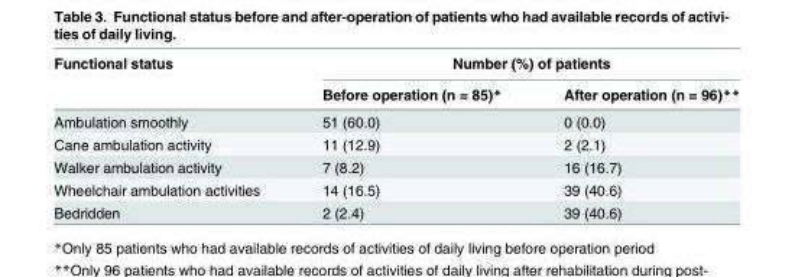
<table><thead><tr><td rowspan="2">Functional status</td><td colspan="2">Number (%) of patients</td></tr><tr><td>Before operation (n = 85)*</td><td>After operation (n = 96)**</td></tr></thead><tbody><tr><td>Ambulation smoothly</td><td>51 (60.0)</td><td>0 (0.0)</td></tr><tr><td>Cane ambulation activity</td><td>11 (12.9)</td><td>2 (2.1)</td></tr><tr><td>Walker ambulation activity</td><td>7 (8.2)</td><td>16 (16.7)</td></tr><tr><td>Wheelchair ambulation activities</td><td>14 (16.5)</td><td>39 (40.6)</td></tr><tr><td>Bedridden</td><td>2 (2.4)</td><td>39 (40.6)</td></tr></tbody></table>